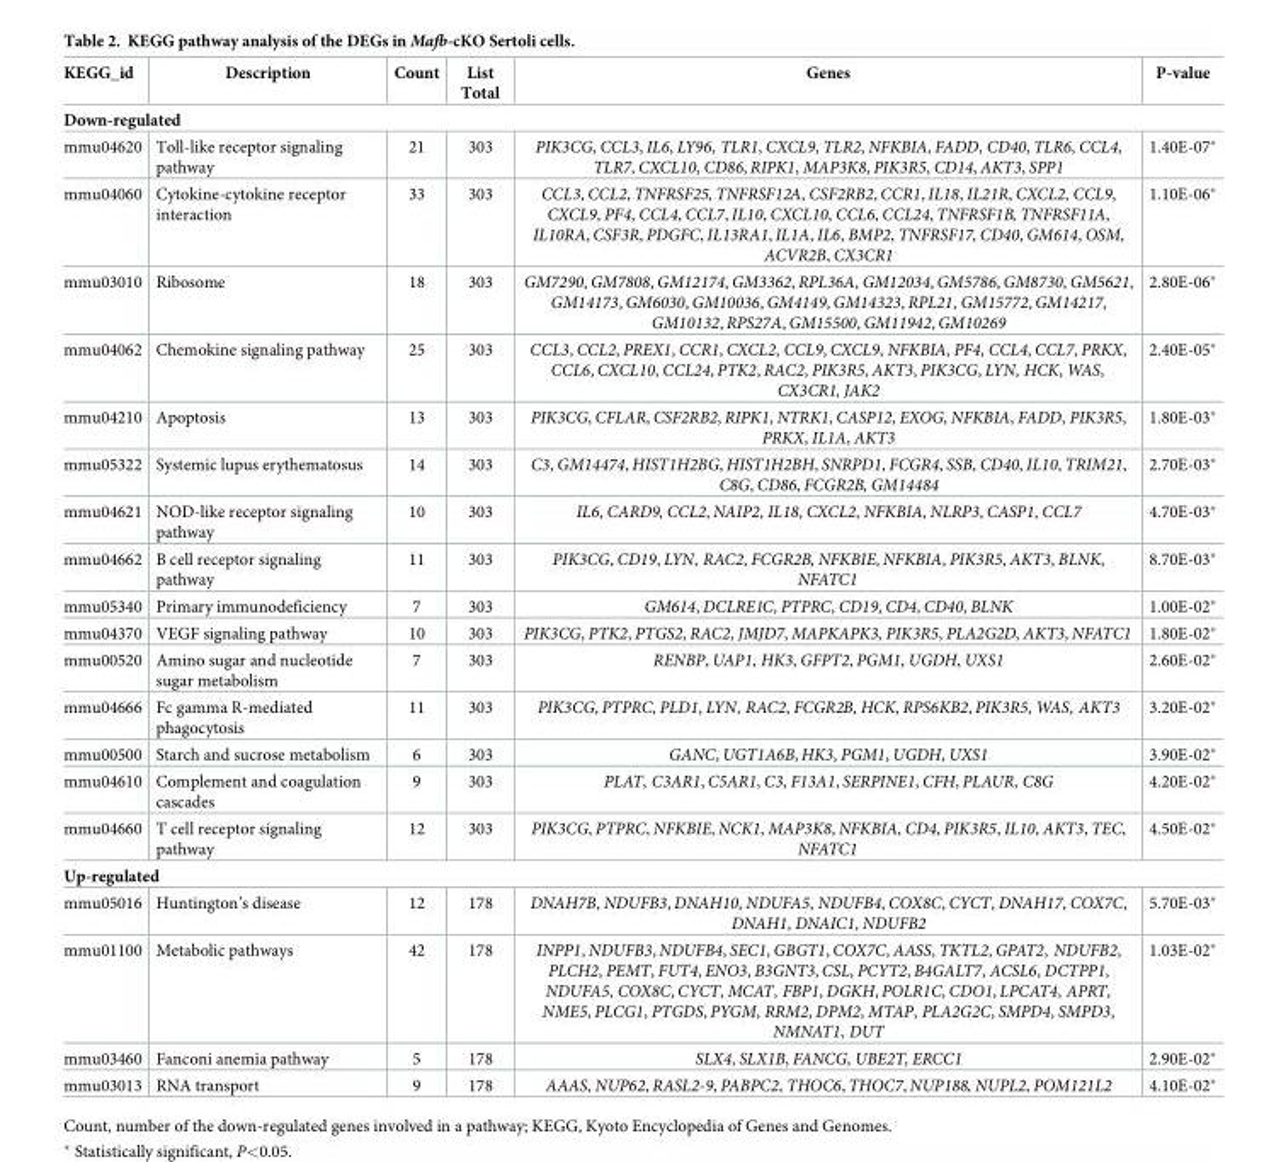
<table><thead><tr><td>KEGG_id</td><td>Description</td><td>Count</td><td>List Total</td><td>Genes</td><td>P-value</td></tr></thead><tbody><tr><td colspan="6">Down-regulated</td></tr><tr><td>mmu04620</td><td>Toll-like receptor signaling pathway</td><td>21</td><td>303</td><td>PIK3CG, CCL3, IL6, LY96, TLR1, CXCL9, TLR2, NFKBIA, FADD, CD40, TLR6, CCL4, TLR7, CXCL10, CD86, RIPK1, MAP3K8, PIK3R5, CD14, AKT3, SPP1</td><td>1.40E-07*</td></tr><tr><td>mmu04060</td><td>Cytokine-cytokine receptor interaction</td><td>33</td><td>303</td><td>CCL3, CCL2, TNFRSF25, TNFRSF12A, CSF2RB2, CCR1, IL18, IL21R, CXCL2, CCL9, CXCL9, PF4, CCL4, CCL7, IL10, CXCL10, CCL6, CCL24, TNFRSF1B, TNFRSF11A, IL10RA, CSF3R, PDGFC, IL13RA1, IL1A, IL6, BMP2, TNFRSF17, CD40, GM614, OSM, ACVR2B, CX3CR1</td><td>1.10E-06*</td></tr><tr><td>mmu03010</td><td>Ribosome</td><td>18</td><td>303</td><td>GM7290, GM7808, GM12174, GM3362, RPL36A, GM12034, GM5786, GM8730, GM5621, GM14173, GM6030, GM10036, GM4149, GM14323, RPL21, GM15772, GM14217, GM10132, RPS27A, GM15500, GM11942, GM10269</td><td>2.80E-06*</td></tr><tr><td>mmu04062</td><td>Chemokine signaling pathway</td><td>25</td><td>303</td><td>CCL3, CCL2, PREX1, CCR1, CXCL2, CCL9, CXCL9, NFKBIA, PF4, CCL4, CCL7, PRKX, CCL6, CXCL10, CCL24, PTK2, RAC2, PIK3R5, AKT3, PIK3CG, LYN, HCK, WAS, CX3CR1, JAK2</td><td>2.40E-05*</td></tr><tr><td>mmu04210</td><td>Apoptosis</td><td>13</td><td>303</td><td>PIK3CG, CFLAR, CSF2RB2, RIPK1, NTRK1, CASP12, EXOG, NFKBIA, FADD, PIK3R5, PRKX, IL1A, AKT3</td><td>1.80E-03*</td></tr><tr><td>mmu05322</td><td>Systemic lupus erythematosus</td><td>14</td><td>303</td><td>C3, GM14474, HIST1H2BG, HIST1H2BH, SNRPD1, FCGR4, SSB, CD40, IL10, TRIM21, C8G, CD86, FCGR2B, GM14484</td><td>2.70E-03*</td></tr><tr><td>mmu04621</td><td>NOD-like receptor signaling pathway</td><td>10</td><td>303</td><td>IL6, CARD9, CCL2, NAIP2, IL18, CXCL2, NFKBIA, NLRP3, CASP1, CCL7</td><td>4.70E-03*</td></tr><tr><td>mmu04662</td><td>B cell receptor signaling pathway</td><td>11</td><td>303</td><td>PIK3CG, CD19, LYN, RAC2, FCGR2B, NFKBIE, NFKBIA, PIK3R5, AKT3, BLNK, NFATC1</td><td>8.70E-03*</td></tr><tr><td>mmu05340</td><td>Primary immunodeficiency</td><td>7</td><td>303</td><td>GM614, DCLRE1C, PTPRC, CD19, CD4, CD40, BLNK</td><td>1.00E-02*</td></tr><tr><td>mmu04370</td><td>VEGF signaling pathway</td><td>10</td><td>303</td><td>PIK3CG, PTK2, PTGS2, RAC2, JMJD7, MAPKAPK3, PIK3R5, PLA2G2D, AKT3, NFATC1</td><td>1.80E-02*</td></tr><tr><td>mmu00520</td><td>Amino sugar and nucleotide sugar metabolism</td><td>7</td><td>303</td><td>RENBP, UAP1, HK3, GFPT2, PGM1, UGDH, UXS1</td><td>2.60E-02*</td></tr><tr><td>mmu04666</td><td>Fc gamma R-mediated phagocytosis</td><td>11</td><td>303</td><td>PIK3CG, PTPRC, PLD1, LYN, RAC2, FCGR2B, HCK, RPS6KB2, PIK3R5, WAS, AKT3</td><td>3.20E-02*</td></tr><tr><td>mmu00500</td><td>Starch and sucrose metabolism</td><td>6</td><td>303</td><td>GANC, UGT1A6B, HK3, PGM1, UGDH, UXS1</td><td>3.90E-02*</td></tr><tr><td>mmu04610</td><td>Complement and coagulation cascades</td><td>9</td><td>303</td><td>PLAT, C3AR1, C5AR1, C3, F13A1, SERPINE1, CFH, PLAUR, C8G</td><td>4.20E-02*</td></tr><tr><td>mmu04660</td><td>T cell receptor signaling pathway</td><td>12</td><td>303</td><td>PIK3CG, PTPRC, NFKBIE, NCK1, MAP3K8, NFKBIA, CD4, PIK3R5, IL10, AKT3, TEC, NFATC1</td><td>4.50E-02*</td></tr><tr><td colspan="6">Up-regulated</td></tr><tr><td>mmu05016</td><td>Huntington’s disease</td><td>12</td><td>178</td><td>DNAH7B, NDUFB3, DNAH10, NDUFA5, NDUFB4, COX8C, CYCT, DNAH17, COX7C, DNAH1, DNAIC1, NDUFB2</td><td>5.70E-03*</td></tr><tr><td>mmu01100</td><td>Metabolic pathways</td><td>42</td><td>178</td><td>INPP1, NDUFB3, NDUFB4, SEC1, GBGT1, COX7C, AASS, TKTL2, GPAT2, NDUFB2, PLCH2, PEMT, FUT4, ENO3, B3GNT3, CSL, PCYT2, B4GALT7, ACSL6, DCTPP1, NDUFA5, COX8C, CYCT, MCAT, FBP1, DGKH, POLR1C, CDO1, LPCAT4, APRT, NME5, PLCG1, PTGDS, PYGM, RRM2, DPM2, MTAP, PLA2G2C, SMPD4, SMPD3, NMNAT1, DUT</td><td>1.03E-02*</td></tr><tr><td>mmu03460</td><td>Fanconi anemia pathway</td><td>5</td><td>178</td><td>SLX4, SLX1B, FANCG, UBE2T, ERCC1</td><td>2.90E-02*</td></tr><tr><td>mmu03013</td><td>RNA transport</td><td>9</td><td>178</td><td>AAAS, NUP62, RASL2-9, PABPC2, THOC6, THOC7, NUP188, NUPL2, POM121L2</td><td>4.10E-02*</td></tr></tbody></table>